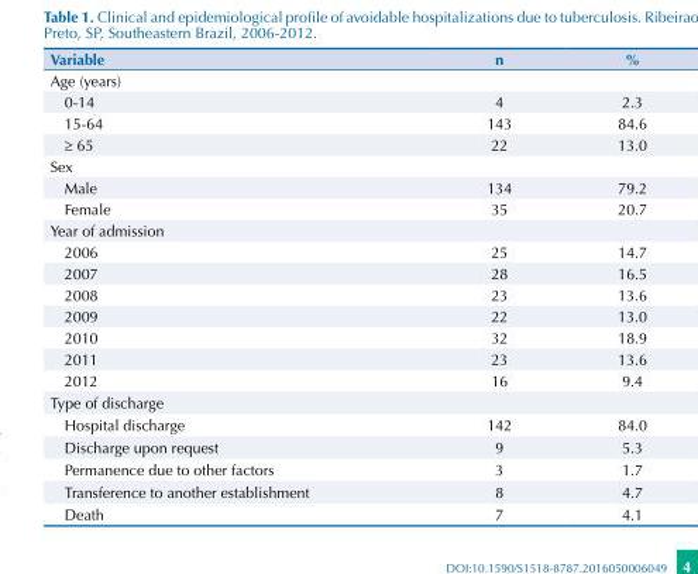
<table><thead><tr><td>Variable</td><td>n</td><td>%</td></tr></thead><tbody><tr><td colspan="3">Age (years)</td></tr><tr><td>0-14</td><td>4</td><td>2.3</td></tr><tr><td>15-64</td><td>143</td><td>84.6</td></tr><tr><td>≥ 65</td><td>22</td><td>13.0</td></tr><tr><td colspan="3">Sex</td></tr><tr><td>Male</td><td>134</td><td>79.2</td></tr><tr><td>Female</td><td>35</td><td>20.7</td></tr><tr><td colspan="3">Year of admission</td></tr><tr><td>2006</td><td>25</td><td>14.7</td></tr><tr><td>2007</td><td>28</td><td>16.5</td></tr><tr><td>2008</td><td>23</td><td>13.6</td></tr><tr><td>2009</td><td>22</td><td>13.0</td></tr><tr><td>2010</td><td>32</td><td>18.9</td></tr><tr><td>2011</td><td>23</td><td>13.6</td></tr><tr><td>2012</td><td>16</td><td>9.4</td></tr><tr><td colspan="3">Type of discharge</td></tr><tr><td>Hospital discharge</td><td>142</td><td>84.0</td></tr><tr><td>Discharge upon request</td><td>9</td><td>5.3</td></tr><tr><td>Permanence due to other factors</td><td>3</td><td>1.7</td></tr><tr><td>Transference to another establishment</td><td>8</td><td>4.7</td></tr><tr><td>Death</td><td>7</td><td>4.1</td></tr></tbody></table>